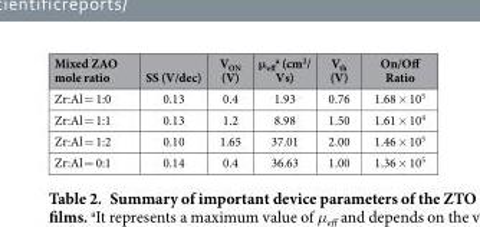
<table><thead><tr><td>Mixed ZAO mole ratio</td><td>SS (V/dec)</td><td>V<sub>ON</sub> (V)</td><td>μ<sub>eff</sub> <sup>a</sup> (cm<sup>2</sup>/ Vs)</td><td>V<sub>th</sub> (V)</td><td>On/Off Ratio</td></tr></thead><tbody><tr><td>Zr:Al = 1:0</td><td>0.13</td><td>0.4</td><td>1.93</td><td>0.76</td><td>1.68 × 10<sup>5</sup></td></tr><tr><td>Zr:Al = 1:1</td><td>0.13</td><td>1.2</td><td>8.98</td><td>1.50</td><td>1.61 × 10<sup>4</sup></td></tr><tr><td>Zr:Al = 1:2</td><td>0.10</td><td>1.65</td><td>37.01</td><td>2.00</td><td>1.46 × 10<sup>5</sup></td></tr><tr><td>Zr:Al = 0:1</td><td>0.14</td><td>0.4</td><td>36.63</td><td>1.00</td><td>1.36 × 10<sup>5</sup></td></tr></tbody></table>